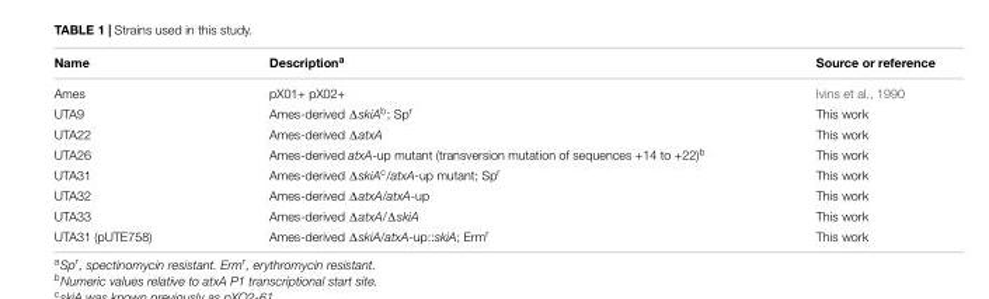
<table><thead><tr><td>Name</td><td>Description<sup>a</sup></td><td>Source or reference</td></tr></thead><tbody><tr><td>Ames</td><td>pX01+ pX02+</td><td>Ivins et al., 1990</td></tr><tr><td>UTA9</td><td>Ames-derived ΔskiA<sup>b</sup>; Sp<sup>r</sup></td><td>This work</td></tr><tr><td>UTA22</td><td>Ames-derived ΔatxA</td><td>This work</td></tr><tr><td>UTA26</td><td>Ames-derived atxA-up mutant (transversion mutation of sequences +14 to +22)<sup>b</sup></td><td>This work</td></tr><tr><td>UTA31</td><td>Ames-derived ΔskiA<sup>c</sup>/atxA-up mutant; Sp<sup>r</sup></td><td>This work</td></tr><tr><td>UTA32</td><td>Ames-derived ΔatxA/atxA-up</td><td>This work</td></tr><tr><td>UTA33</td><td>Ames-derived ΔatxA/ΔskiA</td><td>This work</td></tr><tr><td>UTA31 (pUTE758)</td><td>Ames-derived ΔskiA/atxA-up::skiA; Erm<sup>r</sup></td><td>This work</td></tr></tbody></table>